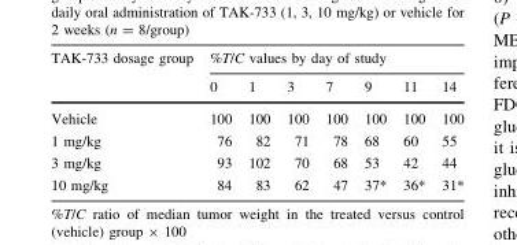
<table><thead><tr><td rowspan="2">TAK-733 dosage group</td><td colspan="7">%T/C values by day of study</td></tr><tr><td>0</td><td>1</td><td>3</td><td>7</td><td>9</td><td>11</td><td>14</td></tr></thead><tbody><tr><td>Vehicle</td><td>100</td><td>100</td><td>100</td><td>100</td><td>100</td><td>100</td><td>100</td></tr><tr><td>1 mg/kg</td><td>76</td><td>82</td><td>71</td><td>78</td><td>68</td><td>60</td><td>55</td></tr><tr><td>3 mg/kg</td><td>93</td><td>102</td><td>70</td><td>68</td><td>53</td><td>42</td><td>44</td></tr><tr><td>10 mg/kg</td><td>84</td><td>83</td><td>62</td><td>47</td><td>37*</td><td>36*</td><td>31*</td></tr></tbody></table>